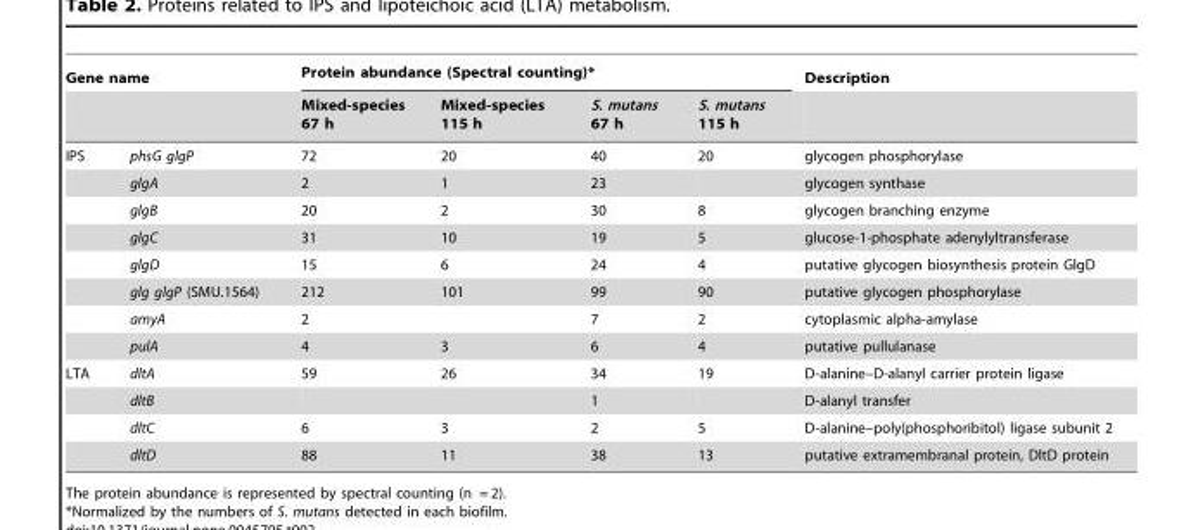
<table><thead><tr><td colspan="2">Gene name</td><td colspan="4">Protein abundance (Spectral counting)*</td><td rowspan="2">Description</td></tr><tr><td></td><td></td><td>Mixed-species 67 h</td><td>Mixed-species 115 h</td><td>S. mutans 67 h</td><td>S. mutans 115 h</td></tr></thead><tbody><tr><td rowspan="8">IPS</td><td>phsG glgP</td><td>72</td><td>20</td><td>40</td><td>20</td><td>glycogen phosphorylase</td></tr><tr><td>glgA</td><td>2</td><td>1</td><td>23</td><td></td><td>glycogen synthase</td></tr><tr><td>glgB</td><td>20</td><td>2</td><td>30</td><td>8</td><td>glycogen branching enzyme</td></tr><tr><td>glgC</td><td>31</td><td>10</td><td>19</td><td>5</td><td>glucose-1-phosphate adenylyltransferase</td></tr><tr><td>glgD</td><td>15</td><td>6</td><td>24</td><td>4</td><td>putative glycogen biosynthesis protein GlgD</td></tr><tr><td>glg glgP (SMU.1564)</td><td>212</td><td>101</td><td>99</td><td>90</td><td>putative glycogen phosphorylase</td></tr><tr><td>amyA</td><td>2</td><td></td><td>7</td><td>2</td><td>cytoplasmic alpha-amylase</td></tr><tr><td>pulA</td><td>4</td><td>3</td><td>6</td><td>4</td><td>putative pullulanase</td></tr><tr><td rowspan="4">LTA</td><td>dltA</td><td>59</td><td>26</td><td>34</td><td>19</td><td>D-alanine–D-alanyl carrier protein ligase</td></tr><tr><td>dltB</td><td></td><td></td><td>1</td><td></td><td>D-alanyl transfer</td></tr><tr><td>dltC</td><td>6</td><td>3</td><td>2</td><td>5</td><td>D-alanine–poly(phosphoribitol) ligase subunit 2</td></tr><tr><td>dltD</td><td>88</td><td>11</td><td>38</td><td>13</td><td>putative extramembranal protein, DltD protein</td></tr></tbody></table>